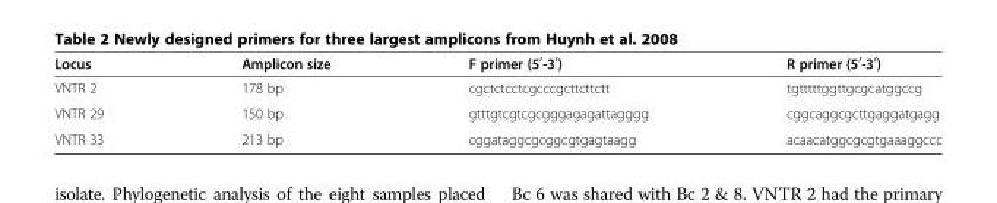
<table><thead><tr><td>Locus</td><td>Amplicon size</td><td>F primer (5<sup>′</sup>-3<sup>′</sup>)</td><td>R primer (5<sup>′</sup>-3<sup>′</sup>)</td></tr></thead><tbody><tr><td>VNTR 2</td><td>178 bp</td><td>cgctctcctcgcccgcttcttctt</td><td>tgtttttggttgcgcatggccg</td></tr><tr><td>VNTR 29</td><td>150 bp</td><td>gtttgtcgtcgcgggagagattagggg</td><td>cggcaggcgcttgaggatgagg</td></tr><tr><td>VNTR 33</td><td>213 bp</td><td>cggataggcgcggcgtgagtaagg</td><td>acaacatggcgcgtgaaaggccc</td></tr></tbody></table>